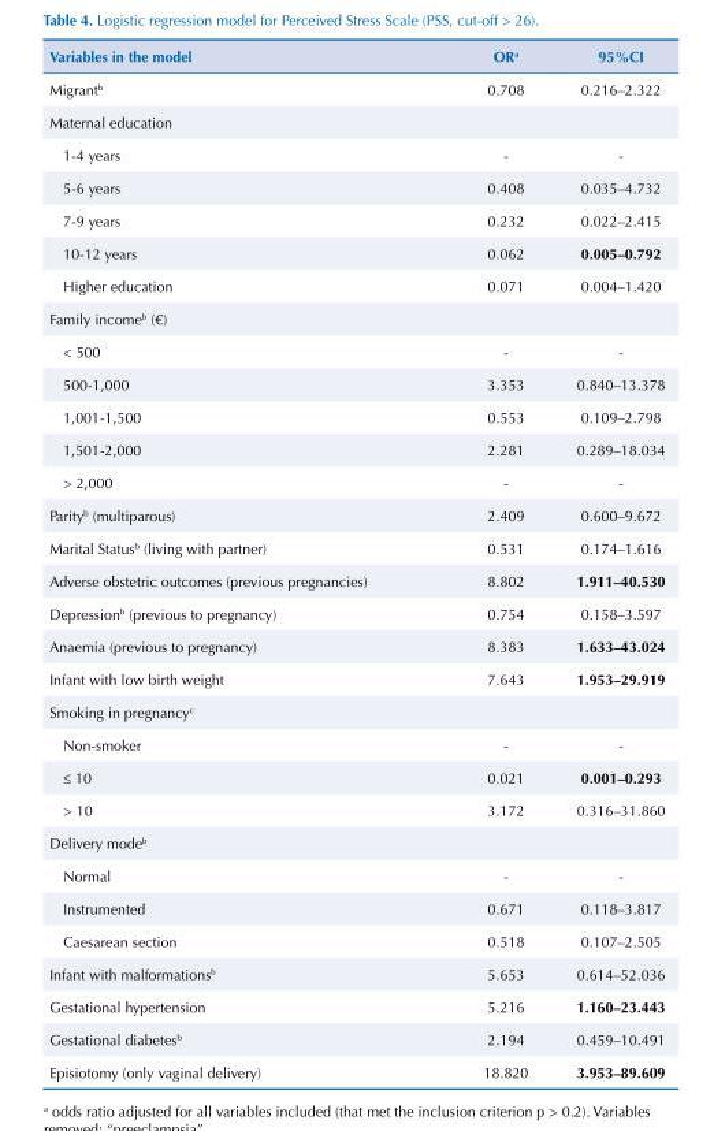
<table><thead><tr><td>Variables in the model</td><td>OR<sup>a</sup></td><td>95%CI</td></tr></thead><tbody><tr><td>Migrant<sup>b</sup></td><td>0.708</td><td>0.216–2.322</td></tr><tr><td colspan="3">Maternal education</td></tr><tr><td>1-4 years</td><td>-</td><td>-</td></tr><tr><td>5-6 years</td><td>0.408</td><td>0.035–4.732</td></tr><tr><td>7-9 years</td><td>0.232</td><td>0.022–2.415</td></tr><tr><td>10-12 years</td><td>0.062</td><td>0.005–0.792</td></tr><tr><td>Higher education</td><td>0.071</td><td>0.004–1.420</td></tr><tr><td colspan="3">Family income<sup>b</sup> (€)</td></tr><tr><td>&lt; 500</td><td>-</td><td>-</td></tr><tr><td>500-1,000</td><td>3.353</td><td>0.840–13.378</td></tr><tr><td>1,001-1,500</td><td>0.553</td><td>0.109–2.798</td></tr><tr><td>1,501-2,000</td><td>2.281</td><td>0.289–18.034</td></tr><tr><td>&gt; 2,000</td><td>-</td><td>-</td></tr><tr><td>Parity<sup>b</sup> (multiparous)</td><td>2.409</td><td>0.600–9.672</td></tr><tr><td>Marital Status<sup>b</sup> (living with partner)</td><td>0.531</td><td>0.174–1.616</td></tr><tr><td>Adverse obstetric outcomes (previous pregnancies)</td><td>8.802</td><td>1.911–40.530</td></tr><tr><td>Depression<sup>b</sup> (previous to pregnancy)</td><td>0.754</td><td>0.158–3.597</td></tr><tr><td>Anaemia (previous to pregnancy)</td><td>8.383</td><td>1.633–43.024</td></tr><tr><td>Infant with low birth weight</td><td>7.643</td><td>1.953–29.919</td></tr><tr><td colspan="3">Smoking in pregnancy<sup>c</sup></td></tr><tr><td>Non-smoker</td><td>-</td><td>-</td></tr><tr><td>≤ 10</td><td>0.021</td><td>0.001–0.293</td></tr><tr><td>&gt; 10</td><td>3.172</td><td>0.316–31.860</td></tr><tr><td colspan="3">Delivery mode<sup>b</sup></td></tr><tr><td>Normal</td><td>-</td><td>-</td></tr><tr><td>Instrumented</td><td>0.671</td><td>0.118–3.817</td></tr><tr><td>Caesarean section</td><td>0.518</td><td>0.107–2.505</td></tr><tr><td>Infant with malformations<sup>b</sup></td><td>5.653</td><td>0.614–52.036</td></tr><tr><td>Gestational hypertension</td><td>5.216</td><td>1.160–23.443</td></tr><tr><td>Gestational diabetes<sup>b</sup></td><td>2.194</td><td>0.459–10.491</td></tr><tr><td>Episiotomy (only vaginal delivery)</td><td>18.820</td><td>3.953–89.609</td></tr></tbody></table>